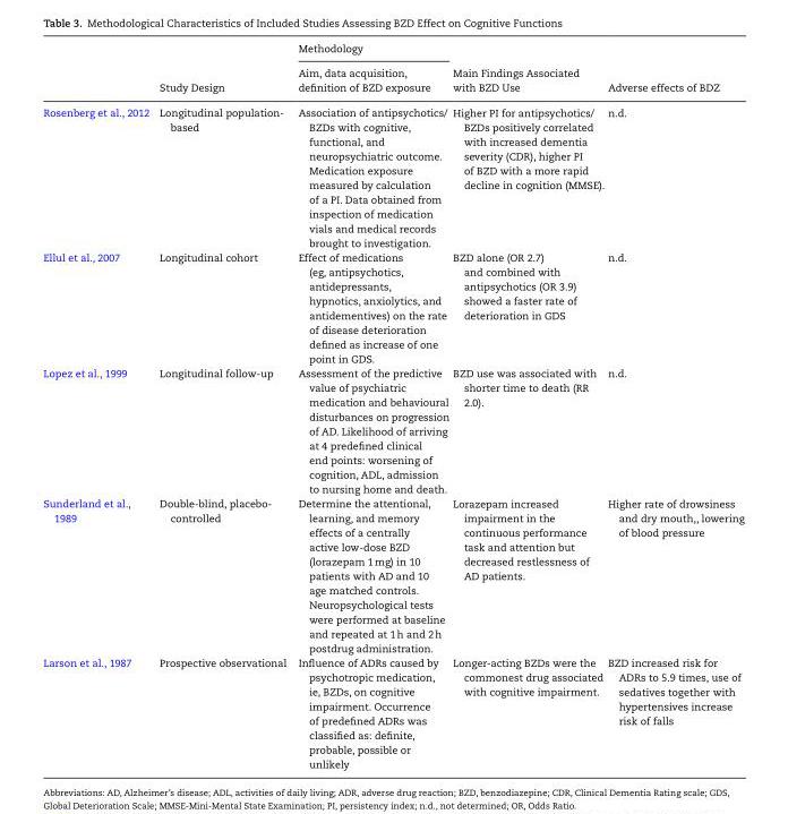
<table><thead><tr><td></td><td>Study Design</td><td>Methodology Aim, data acquisition, definition of BZD exposure</td><td>Main Findings Associated with BZD Use</td><td>Adverse effects of BDZ</td></tr></thead><tbody><tr><td>Rosenberg et al., 2012</td><td>Longitudinal population- based</td><td>Association of antipsychotics/ BZDs with cognitive, functional, and neuropsychiatric outcome. Medication exposure measured by calculation of a PI. Data obtained from inspection of medication vials and medical records brought to investigation.</td><td>Higher PI for antipsychotics/ BZDs positively correlated with increased dementia severity (CDR), higher PI of BZD with a more rapid decline in cognition (MMSE).</td><td>n.d.</td></tr><tr><td>Ellul et al., 2007</td><td>Longitudinal cohort</td><td>Effect of medications (eg, antipsychotics, antidepressants, hypnotics, anxiolytics, and antidementives) on the rate of disease deterioration defined as increase of one point in GDS.</td><td>BZD alone (OR 2.7) and combined with antipsychotics (OR 3.9) showed a faster rate of deterioration in GDS</td><td>n.d.</td></tr><tr><td>Lopez et al., 1999</td><td>Longitudinal follow-up</td><td>Assessment of the predictive value of psychiatric medication and behavioural disturbances on progression of AD. Likelihood of arriving at 4 predefined clinical end points: worsening of cognition, ADL, admission to nursing home and death.</td><td>BZD use was associated with shorter time to death (RR 2.0).</td><td>n.d.</td></tr><tr><td>Sunderland et al., 1989</td><td>Double-blind, placebo- controlled</td><td>Determine the attentional, learning, and memory effects of a centrally active low-dose BZD (lorazepam 1 mg) in 10 patients with AD and 10 age matched controls. Neuropsychological tests were performed at baseline and repeated at 1 h and 2 h postdrug administration.</td><td>Lorazepam increased impairment in the continuous performance task and attention but decreased restlessness of AD patients.</td><td>Higher rate of drowsiness and dry mouth,, lowering of blood pressure</td></tr><tr><td>Larson et al., 1987</td><td>Prospective observational</td><td>Influence of ADRs caused by psychotropic medication, ie, BZDs, on cognitive impairment. Occurrence of predefined ADRs was classified as: definite, probable, possible or unlikely</td><td>Longer-acting BZDs were the commonest drug associated with cognitive impairment.</td><td>BZD increased risk for ADRs to 5.9 times, use of sedatives together with hypertensives increase risk of falls</td></tr></tbody></table>